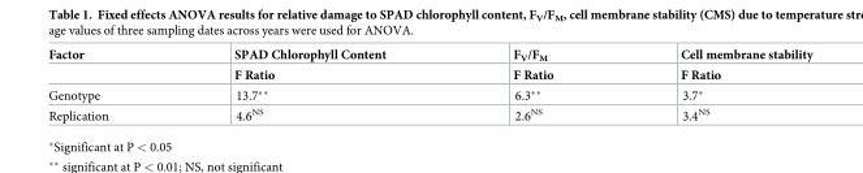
<table><thead><tr><td rowspan="2">Factor</td><td rowspan="2">SPAD Chlorophyll Content F Ratio</td><td rowspan="2">F<sub>V</sub>/F<sub>M</sub> F Ratio</td><td rowspan="2">Cell membrane stability F Ratio</td></tr><tr></tr></thead><tbody><tr><td>Genotype</td><td>13.7**</td><td>6.3**</td><td>3.7*</td></tr><tr><td>Replication</td><td>4.6<sup>NS</sup></td><td>2.6<sup>NS</sup></td><td>3.4<sup>NS</sup></td></tr></tbody></table>